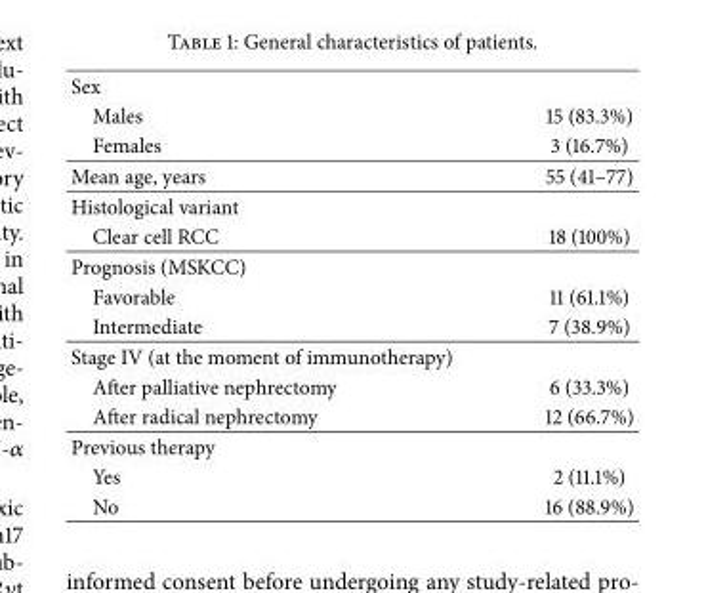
<table><tbody><tr><td colspan="2">Sex</td></tr><tr><td>Males</td><td>15 (83.3%)</td></tr><tr><td>Females</td><td>3 (16.7%)</td></tr><tr><td>Mean age, years</td><td>55 (41–77)</td></tr><tr><td colspan="2">Histological variant</td></tr><tr><td>Clear cell RCC</td><td>18 (100%)</td></tr><tr><td colspan="2">Prognosis (MSKCC)</td></tr><tr><td>Favorable</td><td>11 (61.1%)</td></tr><tr><td>Intermediate</td><td>7 (38.9%)</td></tr><tr><td colspan="2">Stage IV (at the moment of immunotherapy)</td></tr><tr><td>After palliative nephrectomy</td><td>6 (33.3%)</td></tr><tr><td>After radical nephrectomy</td><td>12 (66.7%)</td></tr><tr><td colspan="2">Previous therapy</td></tr><tr><td>Yes</td><td>2 (11.1%)</td></tr><tr><td>No</td><td>16 (88.9%)</td></tr></tbody></table>